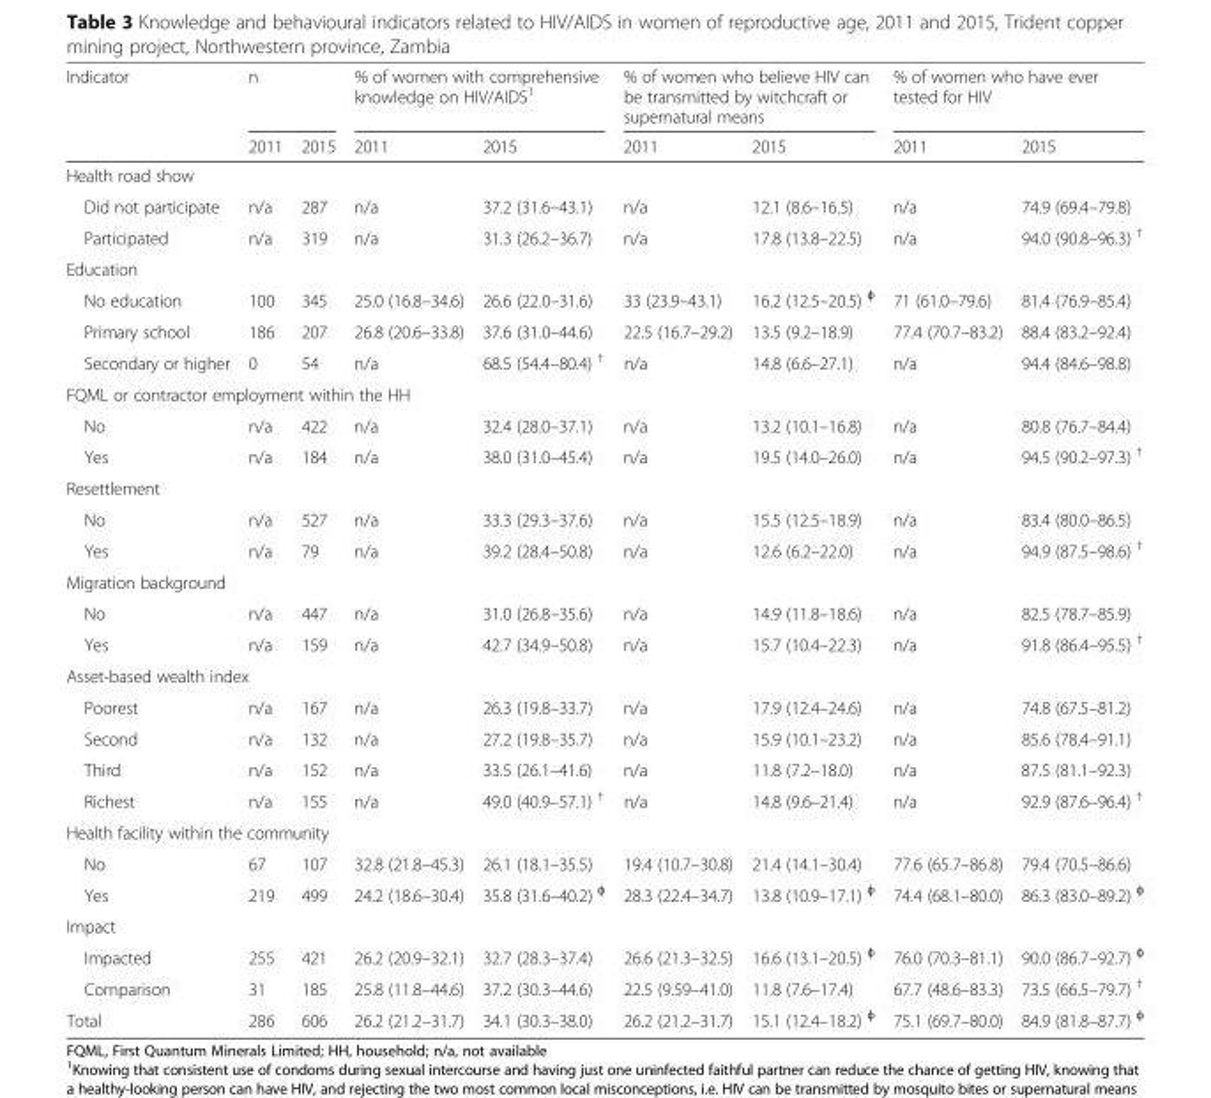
<table><thead><tr><td rowspan="2">Indicator</td><td colspan="2">n</td><td colspan="2">% of women with comprehensive knowledge on HIV/AIDS<sup>1</sup></td><td colspan="2">% of women who believe HIV can be transmitted by witchcraft or supernatural means</td><td colspan="2">% of women who have ever tested for HIV</td></tr><tr><td>2011</td><td>2015</td><td>2011</td><td>2015</td><td>2011</td><td>2015</td><td>2011</td><td>2015</td></tr></thead><tbody><tr><td colspan="9">Health road show</td></tr><tr><td>Did not participate</td><td>n/a</td><td>287</td><td>n/a</td><td>37.2 (31.6–43.1)</td><td>n/a</td><td>12.1 (8.6–16.5)</td><td>n/a</td><td>74.9 (69.4–79.8)</td></tr><tr><td>Participated</td><td>n/a</td><td>319</td><td>n/a</td><td>31.3 (26.2–36.7)</td><td>n/a</td><td>17.8 (13.8–22.5)</td><td>n/a</td><td>94.0 (90.8–96.3) <sup>†</sup></td></tr><tr><td colspan="9">Education</td></tr><tr><td>No education</td><td>100</td><td>345</td><td>25.0 (16.8–34.6)</td><td>26.6 (22.0–31.6)</td><td>33 (23.9–43.1)</td><td>16.2 (12.5–20.5) <sup>ɸ</sup></td><td>71 (61.0–79.6)</td><td>81.4 (76.9–85.4)</td></tr><tr><td>Primary school</td><td>186</td><td>207</td><td>26.8 (20.6–33.8)</td><td>37.6 (31.0–44.6)</td><td>22.5 (16.7–29.2)</td><td>13.5 (9.2–18.9)</td><td>77.4 (70.7–83.2)</td><td>88.4 (83.2–92.4)</td></tr><tr><td>Secondary or higher</td><td>0</td><td>54</td><td>n/a</td><td>68.5 (54.4–80.4) <sup>†</sup></td><td>n/a</td><td>14.8 (6.6–27.1)</td><td>n/a</td><td>94.4 (84.6–98.8)</td></tr><tr><td colspan="9">FQML or contractor employment within the HH</td></tr><tr><td>No</td><td>n/a</td><td>422</td><td>n/a</td><td>32.4 (28.0–37.1)</td><td>n/a</td><td>13.2 (10.1–16.8)</td><td>n/a</td><td>80.8 (76.7–84.4)</td></tr><tr><td>Yes</td><td>n/a</td><td>184</td><td>n/a</td><td>38.0 (31.0–45.4)</td><td>n/a</td><td>19.5 (14.0–26.0)</td><td>n/a</td><td>94.5 (90.2–97.3) <sup>†</sup></td></tr><tr><td colspan="9">Resettlement</td></tr><tr><td>No</td><td>n/a</td><td>527</td><td>n/a</td><td>33.3 (29.3–37.6)</td><td>n/a</td><td>15.5 (12.5–18.9)</td><td>n/a</td><td>83.4 (80.0–86.5)</td></tr><tr><td>Yes</td><td>n/a</td><td>79</td><td>n/a</td><td>39.2 (28.4–50.8)</td><td>n/a</td><td>12.6 (6.2–22.0)</td><td>n/a</td><td>94.9 (87.5–98.6) <sup>†</sup></td></tr><tr><td colspan="9">Migration background</td></tr><tr><td>No</td><td>n/a</td><td>447</td><td>n/a</td><td>31.0 (26.8–35.6)</td><td>n/a</td><td>14.9 (11.8–18.6)</td><td>n/a</td><td>82.5 (78.7–85.9)</td></tr><tr><td>Yes</td><td>n/a</td><td>159</td><td>n/a</td><td>42.7 (34.9–50.8)</td><td>n/a</td><td>15.7 (10.4–22.3)</td><td>n/a</td><td>91.8 (86.4–95.5) <sup>†</sup></td></tr><tr><td colspan="9">Asset-based wealth index</td></tr><tr><td>Poorest</td><td>n/a</td><td>167</td><td>n/a</td><td>26.3 (19.8–33.7)</td><td>n/a</td><td>17.9 (12.4–24.6)</td><td>n/a</td><td>74.8 (67.5–81.2)</td></tr><tr><td>Second</td><td>n/a</td><td>132</td><td>n/a</td><td>27.2 (19.8–35.7)</td><td>n/a</td><td>15.9 (10.1–23.2)</td><td>n/a</td><td>85.6 (78.4–91.1)</td></tr><tr><td>Third</td><td>n/a</td><td>152</td><td>n/a</td><td>33.5 (26.1–41.6)</td><td>n/a</td><td>11.8 (7.2–18.0)</td><td>n/a</td><td>87.5 (81.1–92.3)</td></tr><tr><td>Richest</td><td>n/a</td><td>155</td><td>n/a</td><td>49.0 (40.9–57.1) <sup>†</sup></td><td>n/a</td><td>14.8 (9.6–21.4)</td><td>n/a</td><td>92.9 (87.6–96.4) <sup>†</sup></td></tr><tr><td colspan="9">Health facility within the community</td></tr><tr><td>No</td><td>67</td><td>107</td><td>32.8 (21.8–45.3)</td><td>26.1 (18.1–35.5)</td><td>19.4 (10.7–30.8)</td><td>21.4 (14.1–30.4)</td><td>77.6 (65.7–86.8)</td><td>79.4 (70.5–86.6)</td></tr><tr><td>Yes</td><td>219</td><td>499</td><td>24.2 (18.6–30.4)</td><td>35.8 (31.6–40.2) <sup>ɸ</sup></td><td>28.3 (22.4–34.7)</td><td>13.8 (10.9–17.1) <sup>ɸ</sup></td><td>74.4 (68.1–80.0)</td><td>86.3 (83.0–89.2) <sup>ɸ</sup></td></tr><tr><td colspan="9">Impact</td></tr><tr><td>Impacted</td><td>255</td><td>421</td><td>26.2 (20.9–32.1)</td><td>32.7 (28.3–37.4)</td><td>26.6 (21.3–32.5)</td><td>16.6 (13.1–20.5) <sup>ɸ</sup></td><td>76.0 (70.3–81.1)</td><td>90.0 (86.7–92.7) <sup>ɸ</sup></td></tr><tr><td>Comparison</td><td>31</td><td>185</td><td>25.8 (11.8–44.6)</td><td>37.2 (30.3–44.6)</td><td>22.5 (9.59–41.0)</td><td>11.8 (7.6–17.4)</td><td>67.7 (48.6–83.3)</td><td>73.5 (66.5–79.7) <sup>†</sup></td></tr><tr><td>Total</td><td>286</td><td>606</td><td>26.2 (21.2–31.7)</td><td>34.1 (30.3–38.0)</td><td>26.2 (21.2–31.7)</td><td>15.1 (12.4–18.2) <sup>ɸ</sup></td><td>75.1 (69.7–80.0)</td><td>84.9 (81.8–87.7) <sup>ɸ</sup></td></tr></tbody></table>